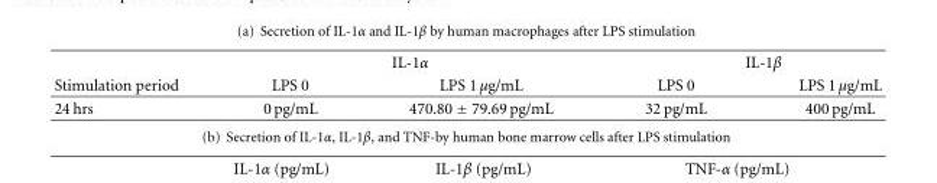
<table><thead><tr><td rowspan="2">Stimulation period</td><td colspan="2">IL-1α</td><td colspan="2">IL-1β</td></tr><tr><td>LPS 0</td><td>LPS 1 μg/mL</td><td>LPS 0</td><td>LPS 1 μg/mL</td></tr></thead><tbody><tr><td>24 hrs</td><td>0 pg/mL</td><td>470.80 ± 79.69 pg/mL</td><td>32 pg/mL</td><td>400 pg/mL</td></tr></tbody></table>